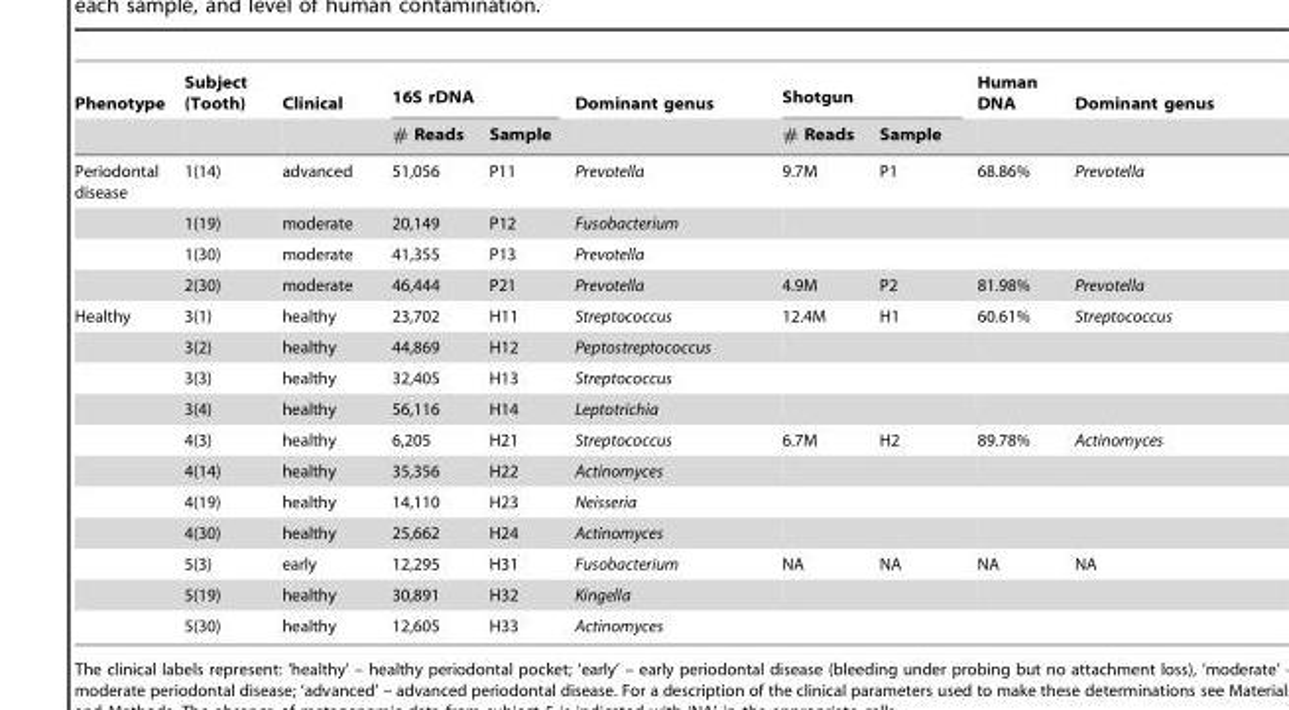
<table><thead><tr><td rowspan="2">Phenotype</td><td rowspan="2">Subject (Tooth)</td><td rowspan="2">Clinical</td><td colspan="2">16S rDNA</td><td rowspan="2">Dominant genus</td><td colspan="2">Shotgun</td><td rowspan="2">Human DNA</td><td rowspan="2">Dominant genus</td></tr><tr><td># Reads</td><td>Sample</td><td># Reads</td><td>Sample</td></tr></thead><tbody><tr><td rowspan="4">Periodontal disease</td><td>1(14)</td><td>advanced</td><td>51,056</td><td>P11</td><td>Prevotella</td><td>9.7M</td><td>P1</td><td>68.86%</td><td>Prevotella</td></tr><tr><td>1(19)</td><td>moderate</td><td>20,149</td><td>P12</td><td>Fusobacterium</td><td></td><td></td><td></td><td></td></tr><tr><td>1(30)</td><td>moderate</td><td>41,355</td><td>P13</td><td>Prevotella</td><td></td><td></td><td></td><td></td></tr><tr><td>2(30)</td><td>moderate</td><td>46,444</td><td>P21</td><td>Prevotella</td><td>4.9M</td><td>P2</td><td>81.98%</td><td>Prevotella</td></tr><tr><td rowspan="11">Healthy</td><td>3(1)</td><td>healthy</td><td>23,702</td><td>H11</td><td>Streptococcus</td><td>12.4M</td><td>H1</td><td>60.61%</td><td>Streptococcus</td></tr><tr><td>3(2)</td><td>healthy</td><td>44,869</td><td>H12</td><td>Peptostreptococcus</td><td></td><td></td><td></td><td></td></tr><tr><td>3(3)</td><td>healthy</td><td>32,405</td><td>H13</td><td>Streptococcus</td><td></td><td></td><td></td><td></td></tr><tr><td>3(4)</td><td>healthy</td><td>56,116</td><td>H14</td><td>Leptotrichia</td><td></td><td></td><td></td><td></td></tr><tr><td>4(3)</td><td>healthy</td><td>6,205</td><td>H21</td><td>Streptococcus</td><td>6.7M</td><td>H2</td><td>89.78%</td><td>Actinomyces</td></tr><tr><td>4(14)</td><td>healthy</td><td>35,356</td><td>H22</td><td>Actinomyces</td><td></td><td></td><td></td><td></td></tr><tr><td>4(19)</td><td>healthy</td><td>14,110</td><td>H23</td><td>Neisseria</td><td></td><td></td><td></td><td></td></tr><tr><td>4(30)</td><td>healthy</td><td>25,662</td><td>H24</td><td>Actinomyces</td><td></td><td></td><td></td><td></td></tr><tr><td>5(3)</td><td>early</td><td>12,295</td><td>H31</td><td>Fusobacterium</td><td>NA</td><td>NA</td><td>NA</td><td>NA</td></tr><tr><td>5(19)</td><td>healthy</td><td>30,891</td><td>H32</td><td>Kingella</td><td></td><td></td><td></td><td></td></tr><tr><td>5(30)</td><td>healthy</td><td>12,605</td><td>H33</td><td>Actinomyces</td><td></td><td></td><td></td><td></td></tr></tbody></table>